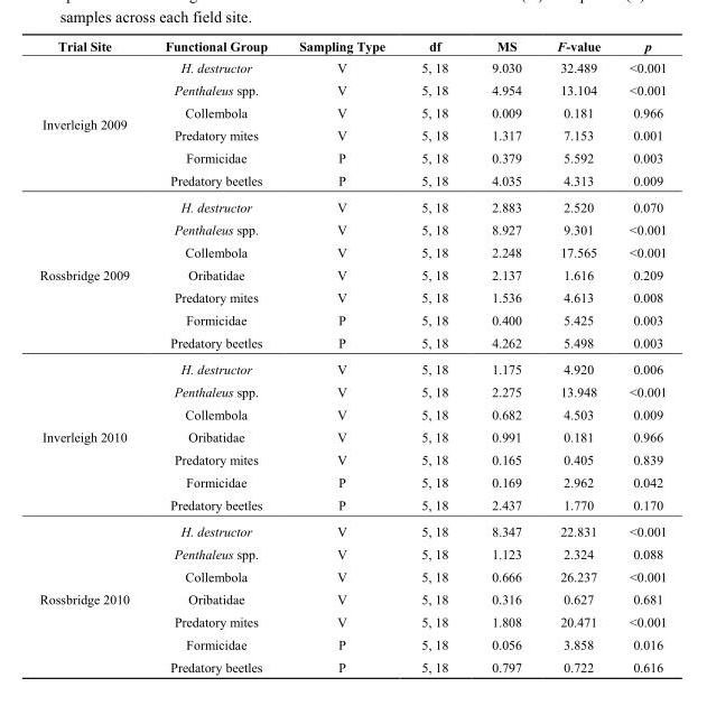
<table><thead><tr><td>Trial Site</td><td>Functional Group</td><td>Sampling Type</td><td>df</td><td>MS</td><td>F-value</td><td>p</td></tr></thead><tbody><tr><td rowspan="6">Inverleigh 2009</td><td>H. destructor</td><td>V</td><td>5, 18</td><td>9.030</td><td>32.489</td><td>&lt;0.001</td></tr><tr><td>Penthaleus spp.</td><td>V</td><td>5, 18</td><td>4.954</td><td>13.104</td><td>&lt;0.001</td></tr><tr><td>Collembola</td><td>V</td><td>5, 18</td><td>0.009</td><td>0.181</td><td>0.966</td></tr><tr><td>Predatory mites</td><td>V</td><td>5, 18</td><td>1.317</td><td>7.153</td><td>0.001</td></tr><tr><td>Formicidae</td><td>P</td><td>5, 18</td><td>0.379</td><td>5.592</td><td>0.003</td></tr><tr><td>Predatory beetles</td><td>P</td><td>5, 18</td><td>4.035</td><td>4.313</td><td>0.009</td></tr><tr><td rowspan="7">Rossbridge 2009</td><td>H. destructor</td><td>V</td><td>5, 18</td><td>2.883</td><td>2.520</td><td>0.070</td></tr><tr><td>Penthaleus spp.</td><td>V</td><td>5, 18</td><td>8.927</td><td>9.301</td><td>&lt;0.001</td></tr><tr><td>Collembola</td><td>V</td><td>5, 18</td><td>2.248</td><td>17.565</td><td>&lt;0.001</td></tr><tr><td>Oribatidae</td><td>V</td><td>5, 18</td><td>2.137</td><td>1.616</td><td>0.209</td></tr><tr><td>Predatory mites</td><td>V</td><td>5, 18</td><td>1.536</td><td>4.613</td><td>0.008</td></tr><tr><td>Formicidae</td><td>P</td><td>5, 18</td><td>0.400</td><td>5.425</td><td>0.003</td></tr><tr><td>Predatory beetles</td><td>P</td><td>5, 18</td><td>4.262</td><td>5.498</td><td>0.003</td></tr><tr><td rowspan="7">Inverleigh 2010</td><td>H. destructor</td><td>V</td><td>5, 18</td><td>1.175</td><td>4.920</td><td>0.006</td></tr><tr><td>Penthaleus spp.</td><td>V</td><td>5, 18</td><td>2.275</td><td>13.948</td><td>&lt;0.001</td></tr><tr><td>Collembola</td><td>V</td><td>5, 18</td><td>0.682</td><td>4.503</td><td>0.009</td></tr><tr><td>Oribatidae</td><td>V</td><td>5, 18</td><td>0.991</td><td>0.181</td><td>0.966</td></tr><tr><td>Predatory mites</td><td>V</td><td>5, 18</td><td>0.165</td><td>0.405</td><td>0.839</td></tr><tr><td>Formicidae</td><td>P</td><td>5, 18</td><td>0.169</td><td>2.962</td><td>0.042</td></tr><tr><td>Predatory beetles</td><td>P</td><td>5, 18</td><td>2.437</td><td>1.770</td><td>0.170</td></tr><tr><td rowspan="7">Rossbridge 2010</td><td>H. destructor</td><td>V</td><td>5, 18</td><td>8.347</td><td>22.831</td><td>&lt;0.001</td></tr><tr><td>Penthaleus spp.</td><td>V</td><td>5, 18</td><td>1.123</td><td>2.324</td><td>0.088</td></tr><tr><td>Collembola</td><td>V</td><td>5, 18</td><td>0.666</td><td>26.237</td><td>&lt;0.001</td></tr><tr><td>Oribatidae</td><td>V</td><td>5, 18</td><td>0.316</td><td>0.627</td><td>0.681</td></tr><tr><td>Predatory mites</td><td>V</td><td>5, 18</td><td>1.808</td><td>20.471</td><td>&lt;0.001</td></tr><tr><td>Formicidae</td><td>P</td><td>5, 18</td><td>0.056</td><td>3.858</td><td>0.016</td></tr><tr><td>Predatory beetles</td><td>P</td><td>5, 18</td><td>0.797</td><td>0.722</td><td>0.616</td></tr></tbody></table>